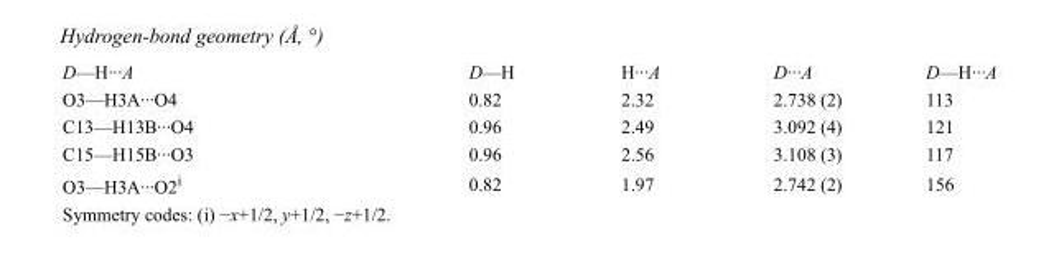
<table><tbody><tr><td>D—H···A</td><td>D—H</td><td>H···A</td><td>D···A</td><td>D—H···A</td></tr><tr><td>O3—H3A···O4</td><td>0.82</td><td>2.32</td><td>2.738 (2)</td><td>113</td></tr><tr><td>C13—H13B···O4</td><td>0.96</td><td>2.49</td><td>3.092 (4)</td><td>121</td></tr><tr><td>C15—H15B···O3</td><td>0.96</td><td>2.56</td><td>3.108 (3)</td><td>117</td></tr><tr><td>O3—H3A···O2<sup>i</sup></td><td>0.82</td><td>1.97</td><td>2.742 (2)</td><td>156</td></tr></tbody></table>